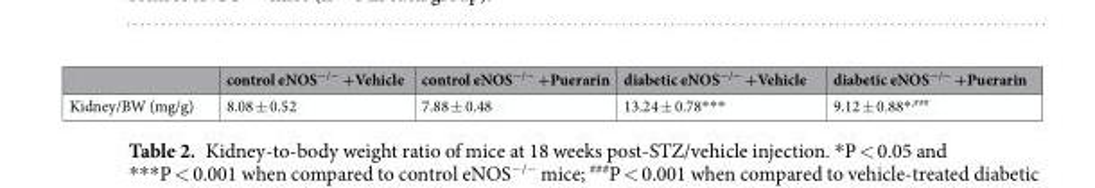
<table><thead><tr><td></td><td>control eNOS<sup>−/−</sup> +Vehicle</td><td>control eNOS<sup>−/−</sup> +Puerarin</td><td>diabetic eNOS<sup>−/−</sup> +Vehicle</td><td>diabetic eNOS<sup>−/−</sup> +Puerarin</td></tr></thead><tbody><tr><td>Kidney/BW (mg/g)</td><td>8.08 ± 0.52</td><td>7.88 ± 0.48</td><td>13.24 ± 0.78***</td><td>9.12 ± 0.88*<sup>,###</sup></td></tr></tbody></table>